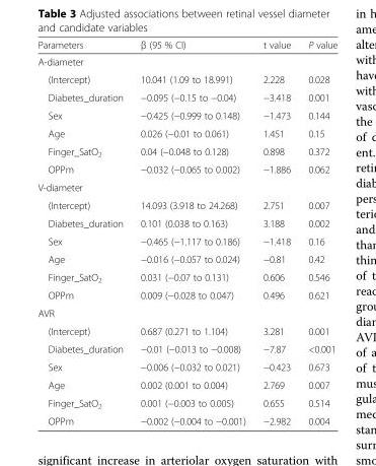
<table><thead><tr><td>Parameters</td><td>β (95 % CI)</td><td>t value</td><td>P value</td></tr></thead><tbody><tr><td colspan="4">A-diameter</td></tr><tr><td>(Intercept)</td><td>10.041 (1.09 to 18.991)</td><td>2.228</td><td>0.028</td></tr><tr><td>Diabetes_duration</td><td>−0.095 (−0.15 to −0.04)</td><td>−3.418</td><td>0.001</td></tr><tr><td>Sex</td><td>−0.425 (−0.999 to 0.148)</td><td>−1.473</td><td>0.144</td></tr><tr><td>Age</td><td>0.026 (−0.01 to 0.061)</td><td>1.451</td><td>0.15</td></tr><tr><td>Finger_SatO<sub>2</sub></td><td>0.04 (−0.048 to 0.128)</td><td>0.898</td><td>0.372</td></tr><tr><td>OPPm</td><td>−0.032 (−0.065 to 0.002)</td><td>−1.886</td><td>0.062</td></tr><tr><td colspan="4">V-diameter</td></tr><tr><td>(Intercept)</td><td>14.093 (3.918 to 24.268)</td><td>2.751</td><td>0.007</td></tr><tr><td>Diabetes_duration</td><td>0.101 (0.038 to 0.163)</td><td>3.188</td><td>0.002</td></tr><tr><td>Sex</td><td>−0.465 (−1.117 to 0.186)</td><td>−1.418</td><td>0.16</td></tr><tr><td>Age</td><td>−0.016 (−0.057 to 0.024)</td><td>−0.81</td><td>0.42</td></tr><tr><td>Finger_SatO<sub>2</sub></td><td>0.031 (−0.07 to 0.131)</td><td>0.606</td><td>0.546</td></tr><tr><td>OPPm</td><td>0.009 (−0.028 to 0.047)</td><td>0.496</td><td>0.621</td></tr><tr><td colspan="4">AVR</td></tr><tr><td>(Intercept)</td><td>0.687 (0.271 to 1.104)</td><td>3.281</td><td>0.001</td></tr><tr><td>Diabetes_duration</td><td>−0.01 (−0.013 to −0.008)</td><td>−7.87</td><td>&lt;0.001</td></tr><tr><td>Sex</td><td>−0.006 (−0.032 to 0.021)</td><td>−0.423</td><td>0.673</td></tr><tr><td>Age</td><td>0.002 (0.001 to 0.004)</td><td>2.769</td><td>0.007</td></tr><tr><td>Finger_SatO<sub>2</sub></td><td>0.001 (−0.003 to 0.005)</td><td>0.655</td><td>0.514</td></tr><tr><td>OPPm</td><td>−0.002 (−0.004 to −0.001)</td><td>−2.982</td><td>0.004</td></tr></tbody></table>